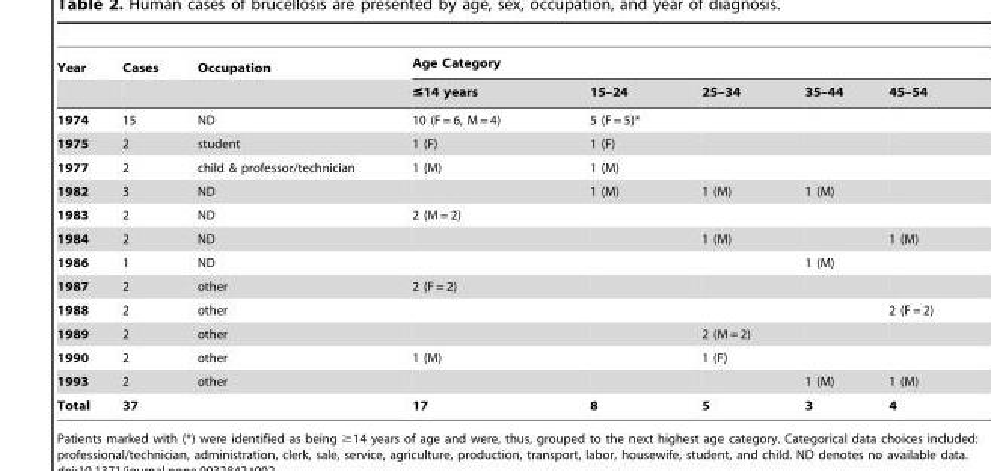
<table><thead><tr><td rowspan="2">Year</td><td rowspan="2">Cases</td><td rowspan="2">Occupation</td><td colspan="5">Age Category</td></tr><tr><td>≤14 years</td><td>15–24</td><td>25–34</td><td>35–44</td><td>45–54</td></tr></thead><tbody><tr><td>1974</td><td>15</td><td>ND</td><td>10 (F = 6, M = 4)</td><td>5 (F = 5)*</td><td></td><td></td><td></td></tr><tr><td>1975</td><td>2</td><td>student</td><td>1 (F)</td><td>1 (F)</td><td></td><td></td><td></td></tr><tr><td>1977</td><td>2</td><td>child &amp; professor/technician</td><td>1 (M)</td><td>1 (M)</td><td></td><td></td><td></td></tr><tr><td>1982</td><td>3</td><td>ND</td><td></td><td>1 (M)</td><td>1 (M)</td><td>1 (M)</td><td></td></tr><tr><td>1983</td><td>2</td><td>ND</td><td>2 (M = 2)</td><td></td><td></td><td></td><td></td></tr><tr><td>1984</td><td>2</td><td>ND</td><td></td><td></td><td>1 (M)</td><td></td><td>1 (M)</td></tr><tr><td>1986</td><td>1</td><td>ND</td><td></td><td></td><td></td><td>1 (M)</td><td></td></tr><tr><td>1987</td><td>2</td><td>other</td><td>2 (F = 2)</td><td></td><td></td><td></td><td></td></tr><tr><td>1988</td><td>2</td><td>other</td><td></td><td></td><td></td><td></td><td>2 (F = 2)</td></tr><tr><td>1989</td><td>2</td><td>other</td><td></td><td></td><td>2 (M = 2)</td><td></td><td></td></tr><tr><td>1990</td><td>2</td><td>other</td><td>1 (M)</td><td></td><td>1 (F)</td><td></td><td></td></tr><tr><td>1993</td><td>2</td><td>other</td><td></td><td></td><td></td><td>1 (M)</td><td>1 (M)</td></tr><tr><td>Total</td><td>37</td><td></td><td>17</td><td>8</td><td>5</td><td>3</td><td>4</td></tr></tbody></table>